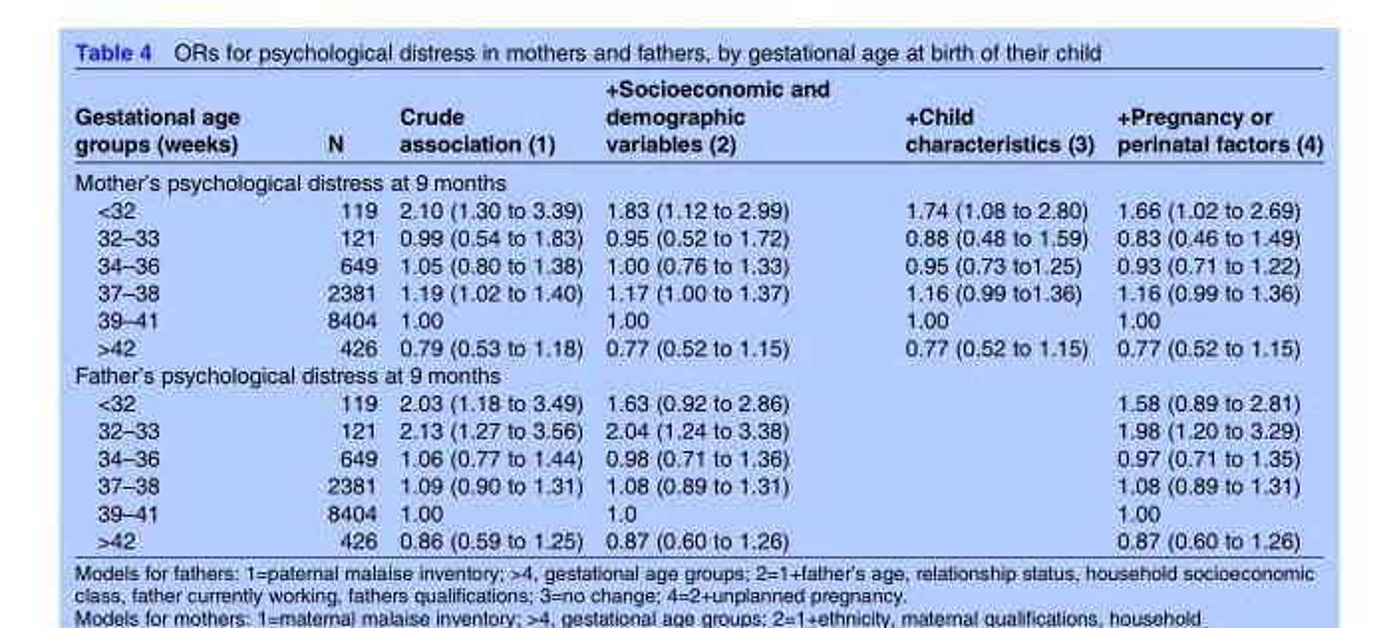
<table><thead><tr><td>Gestational age groups (weeks)</td><td>N</td><td>Crude association (1)</td><td>+Socioeconomic and demographic variables (2)</td><td>+Child characteristics (3)</td><td>+Pregnancy or perinatal factors (4)</td></tr></thead><tbody><tr><td colspan="6">Mother’s psychological distress at 9 months</td></tr><tr><td>&lt;32</td><td>119</td><td>2.10 (1.30 to 3.39)</td><td>1.83 (1.12 to 2.99)</td><td>1.74 (1.08 to 2.80)</td><td>1.66 (1.02 to 2.69)</td></tr><tr><td>32–33</td><td>121</td><td>0.99 (0.54 to 1.83)</td><td>0.95 (0.52 to 1.72)</td><td>0.88 (0.48 to 1.59)</td><td>0.83 (0.46 to 1.49)</td></tr><tr><td>34–36</td><td>649</td><td>1.05 (0.80 to 1.38)</td><td>1.00 (0.76 to 1.33)</td><td>0.95 (0.73 to1.25)</td><td>0.93 (0.71 to 1.22)</td></tr><tr><td>37–38</td><td>2381</td><td>1.19 (1.02 to 1.40)</td><td>1.17 (1.00 to 1.37)</td><td>1.16 (0.99 to1.36)</td><td>1.16 (0.99 to 1.36)</td></tr><tr><td>39–41</td><td>8404</td><td>1.00</td><td>1.00</td><td>1.00</td><td>1.00</td></tr><tr><td>&gt;42</td><td>426</td><td>0.79 (0.53 to 1.18)</td><td>0.77 (0.52 to 1.15)</td><td>0.77 (0.52 to 1.15)</td><td>0.77 (0.52 to 1.15)</td></tr><tr><td colspan="6">Father’s psychological distress at 9 months</td></tr><tr><td>&lt;32</td><td>119</td><td>2.03 (1.18 to 3.49)</td><td>1.63 (0.92 to 2.86)</td><td></td><td>1.58 (0.89 to 2.81)</td></tr><tr><td>32–33</td><td>121</td><td>2.13 (1.27 to 3.56)</td><td>2.04 (1.24 to 3.38)</td><td></td><td>1.98 (1.20 to 3.29)</td></tr><tr><td>34–36</td><td>649</td><td>1.06 (0.77 to 1.44)</td><td>0.98 (0.71 to 1.36)</td><td></td><td>0.97 (0.71 to 1.35)</td></tr><tr><td>37–38</td><td>2381</td><td>1.09 (0.90 to 1.31)</td><td>1.08 (0.89 to 1.31)</td><td></td><td>1.08 (0.89 to 1.31)</td></tr><tr><td>39–41</td><td>8404</td><td>1.00</td><td>1.0</td><td></td><td>1.00</td></tr><tr><td>&gt;42</td><td>426</td><td>0.86 (0.59 to 1.25)</td><td>0.87 (0.60 to 1.26)</td><td></td><td>0.87 (0.60 to 1.26)</td></tr></tbody></table>